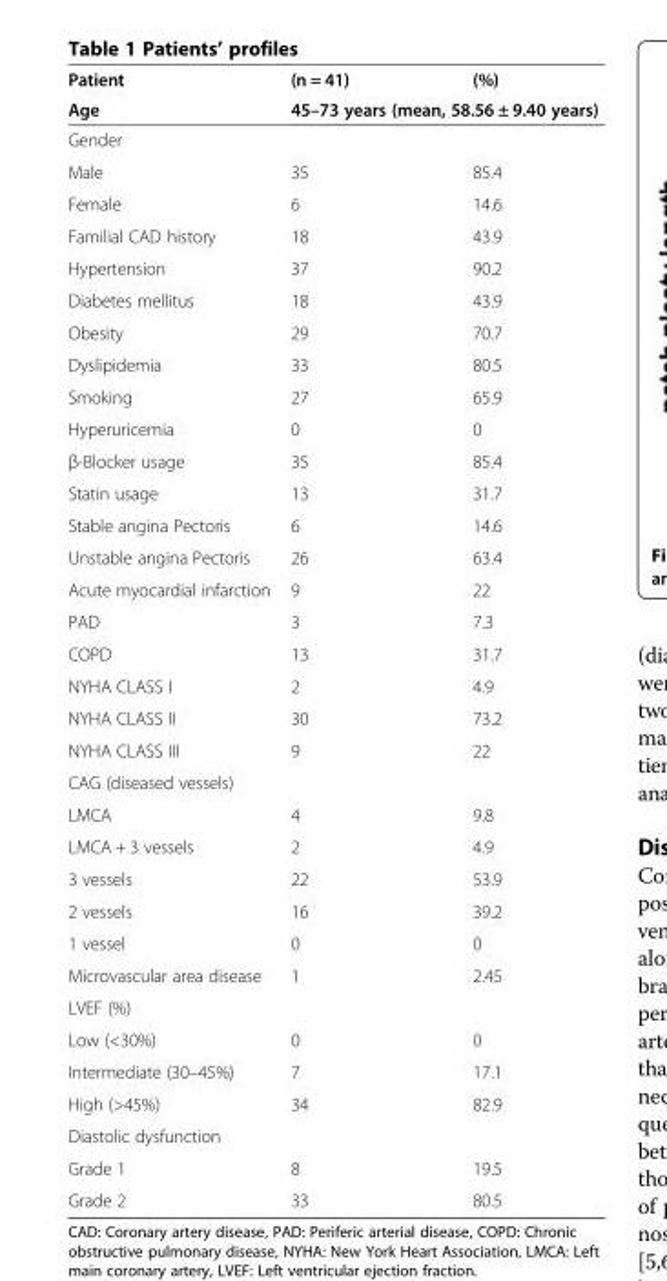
<table><thead><tr><td rowspan="2">Patient Age</td><td>(n = 41)</td><td>(%)</td></tr><tr><td colspan="2">45–73 years (mean, 58.56 ± 9.40 years)</td></tr></thead><tbody><tr><td colspan="3">Gender</td></tr><tr><td>Male</td><td>35</td><td>85.4</td></tr><tr><td>Female</td><td>6</td><td>14.6</td></tr><tr><td>Familial CAD history</td><td>18</td><td>43.9</td></tr><tr><td>Hypertension</td><td>37</td><td>90.2</td></tr><tr><td>Diabetes mellitus</td><td>18</td><td>43.9</td></tr><tr><td>Obesity</td><td>29</td><td>70.7</td></tr><tr><td>Dyslipidemia</td><td>33</td><td>80.5</td></tr><tr><td>Smoking</td><td>27</td><td>65.9</td></tr><tr><td>Hyperuricemia</td><td>0</td><td>0</td></tr><tr><td>β-Blocker usage</td><td>35</td><td>85.4</td></tr><tr><td>Statin usage</td><td>13</td><td>31.7</td></tr><tr><td>Stable angina Pectoris</td><td>6</td><td>14.6</td></tr><tr><td>Unstable angina Pectoris</td><td>26</td><td>63.4</td></tr><tr><td>Acute myocardial infarction</td><td>9</td><td>22</td></tr><tr><td>PAD</td><td>3</td><td>7.3</td></tr><tr><td>COPD</td><td>13</td><td>31.7</td></tr><tr><td>NYHA CLASS I</td><td>2</td><td>4.9</td></tr><tr><td>NYHA CLASS II</td><td>30</td><td>73.2</td></tr><tr><td>NYHA CLASS III</td><td>9</td><td>22</td></tr><tr><td colspan="3">CAG (diseased vessels)</td></tr><tr><td>LMCA</td><td>4</td><td>9.8</td></tr><tr><td>LMCA + 3 vessels</td><td>2</td><td>4.9</td></tr><tr><td>3 vessels</td><td>22</td><td>53.9</td></tr><tr><td>2 vessels</td><td>16</td><td>39.2</td></tr><tr><td>1 vessel</td><td>0</td><td>0</td></tr><tr><td>Microvascular area disease</td><td>1</td><td>2.45</td></tr><tr><td colspan="3">LVEF (%)</td></tr><tr><td>Low (&lt;30%)</td><td>0</td><td>0</td></tr><tr><td>Intermediate (30–45%)</td><td>7</td><td>17.1</td></tr><tr><td>High (&gt;45%)</td><td>34</td><td>82.9</td></tr><tr><td colspan="3">Diastolic dysfunction</td></tr><tr><td>Grade 1</td><td>8</td><td>19.5</td></tr><tr><td>Grade 2</td><td>33</td><td>80.5</td></tr></tbody></table>